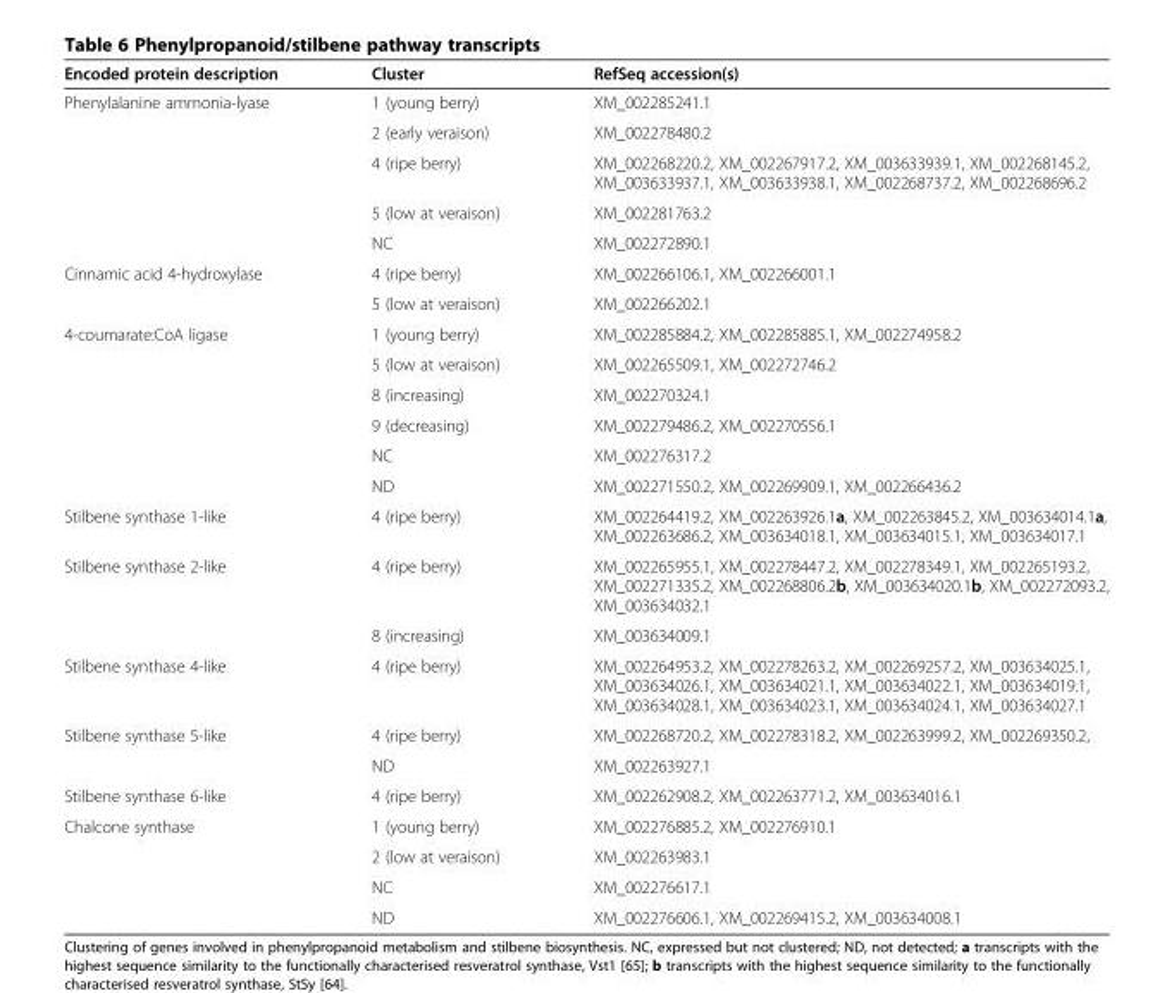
<table><thead><tr><td>Encoded protein description</td><td>Cluster</td><td>RefSeq accession(s)</td></tr></thead><tbody><tr><td rowspan="5">Phenylalanine ammonia-lyase</td><td>1 (young berry)</td><td>XM_002285241.1</td></tr><tr><td>2 (early veraison)</td><td>XM_002278480.2</td></tr><tr><td>4 (ripe berry)</td><td>XM_002268220.2, XM_002267917.2, XM_003633939.1, XM_002268145.2, XM_003633937.1, XM_003633938.1, XM_002268737.2, XM_002268696.2</td></tr><tr><td>5 (low at veraison)</td><td>XM_002281763.2</td></tr><tr><td>NC</td><td>XM_002272890.1</td></tr><tr><td rowspan="2">Cinnamic acid 4-hydroxylase</td><td>4 (ripe berry)</td><td>XM_002266106.1, XM_002266001.1</td></tr><tr><td>5 (low at veraison)</td><td>XM_002266202.1</td></tr><tr><td rowspan="6">4-coumarate:CoA ligase</td><td>1 (young berry)</td><td>XM_002285884.2, XM_002285885.1, XM_002274958.2</td></tr><tr><td>5 (low at veraison)</td><td>XM_002265509.1, XM_002272746.2</td></tr><tr><td>8 (increasing)</td><td>XM_002270324.1</td></tr><tr><td>9 (decreasing)</td><td>XM_002279486.2, XM_002270556.1</td></tr><tr><td>NC</td><td>XM_002276317.2</td></tr><tr><td>ND</td><td>XM_002271550.2, XM_002269909.1, XM_002266436.2</td></tr><tr><td>Stilbene synthase 1-like</td><td>4 (ripe berry)</td><td>XM_002264419.2, XM_002263926.1a, XM_002263845.2, XM_003634014.1a, XM_002263686.2, XM_003634018.1, XM_003634015.1, XM_003634017.1</td></tr><tr><td rowspan="2">Stilbene synthase 2-like</td><td>4 (ripe berry)</td><td>XM_002265955.1, XM_002278447.2, XM_002278349.1, XM_002265193.2, XM_002271335.2, XM_002268806.2b, XM_003634020.1b, XM_002272093.2, XM_003634032.1</td></tr><tr><td>8 (increasing)</td><td>XM_003634009.1</td></tr><tr><td>Stilbene synthase 4-like</td><td>4 (ripe berry)</td><td>XM_002264953.2, XM_002278263.2, XM_002269257.2, XM_003634025.1, XM_003634026.1, XM_003634021.1, XM_003634022.1, XM_003634019.1, XM_003634028.1, XM_003634023.1, XM_003634024.1, XM_003634027.1</td></tr><tr><td rowspan="2">Stilbene synthase 5-like</td><td>4 (ripe berry)</td><td>XM_002268720.2, XM_002278318.2, XM_002263999.2, XM_002269350.2,</td></tr><tr><td>ND</td><td>XM_002263927.1</td></tr><tr><td>Stilbene synthase 6-like</td><td>4 (ripe berry)</td><td>XM_002262908.2, XM_002263771.2, XM_003634016.1</td></tr><tr><td rowspan="4">Chalcone synthase</td><td>1 (young berry)</td><td>XM_002276885.2, XM_002276910.1</td></tr><tr><td>2 (low at veraison)</td><td>XM_002263983.1</td></tr><tr><td>NC</td><td>XM_002276617.1</td></tr><tr><td>ND</td><td>XM_002276606.1, XM_002269415.2, XM_003634008.1</td></tr></tbody></table>